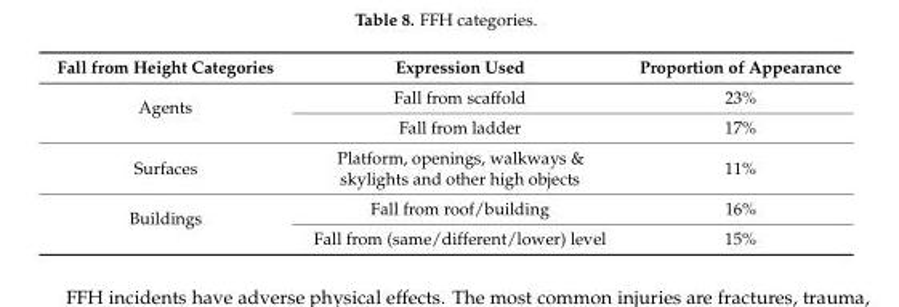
<table><thead><tr><td>Fall from Height Categories</td><td>Expression Used</td><td>Proportion of Appearance</td></tr></thead><tbody><tr><td rowspan="2">Agents</td><td>Fall from scaffold</td><td>23%</td></tr><tr><td>Fall from ladder</td><td>17%</td></tr><tr><td>Surfaces</td><td>Platform, openings, walkways &amp; skylights and other high objects</td><td>11%</td></tr><tr><td rowspan="2">Buildings</td><td>Fall from roof/building</td><td>16%</td></tr><tr><td>Fall from (same/different/lower) level</td><td>15%</td></tr></tbody></table>